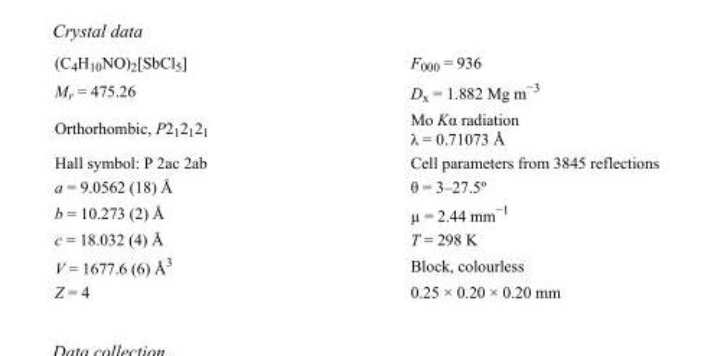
<table><tbody><tr><td>(C<sub>4</sub>H<sub>10</sub>NO)<sub>2</sub>[SbCl<sub>5</sub>]</td><td>F000 = 936</td></tr><tr><td>M<sub>r</sub> = 475.26</td><td>D<sub>x</sub> = 1.882 Mg m<sup>−3</sup></td></tr><tr><td>Orthorhombic, P2<sub>1</sub>2<sub>1</sub>2<sub>1</sub></td><td>Mo Kα radiation λ = 0.71073 Å</td></tr><tr><td>Hall symbol: P 2ac 2ab</td><td>Cell parameters from 3845 reflections</td></tr><tr><td>a = 9.0562 (18) Å</td><td>θ = 3–27.5º</td></tr><tr><td>b = 10.273 (2) Å</td><td>µ = 2.44 mm<sup>−1</sup></td></tr><tr><td>c = 18.032 (4) Å</td><td>T = 298 K</td></tr><tr><td>V = 1677.6 (6) Å<sup>3</sup></td><td>Block, colourless</td></tr><tr><td>Z = 4</td><td>0.25 × 0.20 × 0.20 mm</td></tr></tbody></table>